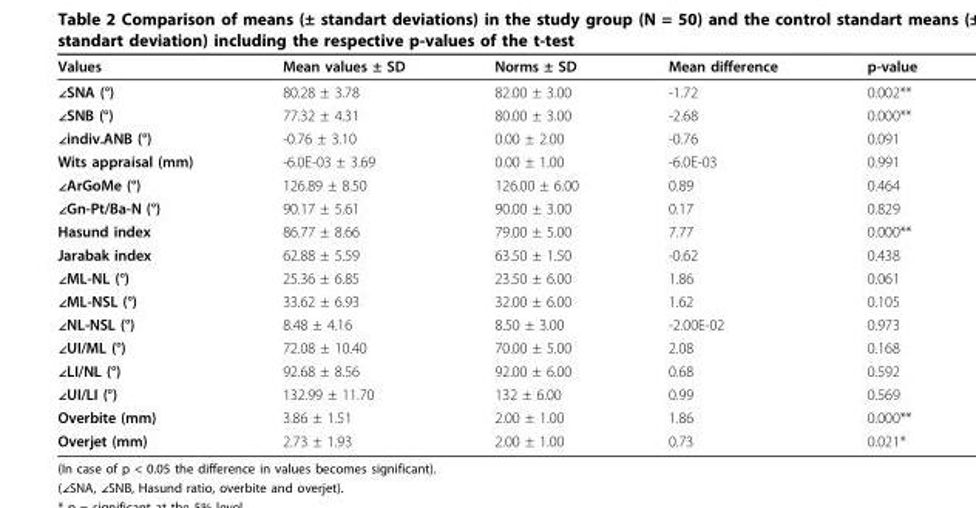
<table><thead><tr><td>Values</td><td>Mean values ± SD</td><td>Norms ± SD</td><td>Mean difference</td><td>p-value</td></tr></thead><tbody><tr><td>∠SNA (°)</td><td>80.28 ± 3.78</td><td>82.00 ± 3.00</td><td>-1.72</td><td>0.002**</td></tr><tr><td>∠SNB (°)</td><td>77.32 ± 4.31</td><td>80.00 ± 3.00</td><td>-2.68</td><td>0.000**</td></tr><tr><td>∠indiv.ANB (°)</td><td>-0.76 ± 3.10</td><td>0.00 ± 2.00</td><td>-0.76</td><td>0.091</td></tr><tr><td>Wits appraisal (mm)</td><td>-6.0E-03 ± 3.69</td><td>0.00 ± 1.00</td><td>-6.0E-03</td><td>0.991</td></tr><tr><td>∠ArGoMe (°)</td><td>126.89 ± 8.50</td><td>126.00 ± 6.00</td><td>0.89</td><td>0.464</td></tr><tr><td>∠Gn-Pt/Ba-N (°)</td><td>90.17 ± 5.61</td><td>90.00 ± 3.00</td><td>0.17</td><td>0.829</td></tr><tr><td>Hasund index</td><td>86.77 ± 8.66</td><td>79.00 ± 5.00</td><td>7.77</td><td>0.000**</td></tr><tr><td>Jarabak index</td><td>62.88 ± 5.59</td><td>63.50 ± 1.50</td><td>-0.62</td><td>0.438</td></tr><tr><td>∠ML-NL (°)</td><td>25.36 ± 6.85</td><td>23.50 ± 6.00</td><td>1.86</td><td>0.061</td></tr><tr><td>∠ML-NSL (°)</td><td>33.62 ± 6.93</td><td>32.00 ± 6.00</td><td>1.62</td><td>0.105</td></tr><tr><td>∠NL-NSL (°)</td><td>8.48 ± 4.16</td><td>8.50 ± 3.00</td><td>-2.00E-02</td><td>0.973</td></tr><tr><td>∠UI/ML (°)</td><td>72.08 ± 10.40</td><td>70.00 ± 5.00</td><td>2.08</td><td>0.168</td></tr><tr><td>∠LI/NL (°)</td><td>92.68 ± 8.56</td><td>92.00 ± 6.00</td><td>0.68</td><td>0.592</td></tr><tr><td>∠UI/LI (°)</td><td>132.99 ± 11.70</td><td>132 ± 6.00</td><td>0.99</td><td>0.569</td></tr><tr><td>Overbite (mm)</td><td>3.86 ± 1.51</td><td>2.00 ± 1.00</td><td>1.86</td><td>0.000**</td></tr><tr><td>Overjet (mm)</td><td>2.73 ± 1.93</td><td>2.00 ± 1.00</td><td>0.73</td><td>0.021*</td></tr></tbody></table>